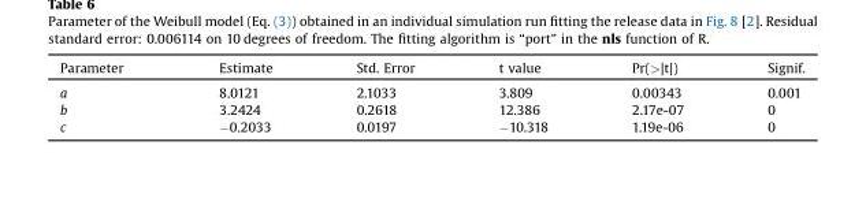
<table><thead><tr><td>Parameter</td><td>Estimate</td><td>Std. Error</td><td>t value</td><td>Pr(&gt;|t|)</td><td>Signif.</td></tr></thead><tbody><tr><td>a</td><td>8.0121</td><td>2.1033</td><td>3.809</td><td>0.00343</td><td>0.001</td></tr><tr><td>b</td><td>3.2424</td><td>0.2618</td><td>12.386</td><td>2.17e-07</td><td>0</td></tr><tr><td>c</td><td>−0.2033</td><td>0.0197</td><td>−10.318</td><td>1.19e-06</td><td>0</td></tr></tbody></table>